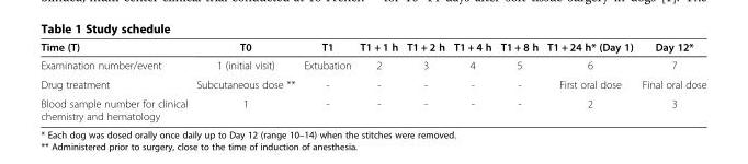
<table><thead><tr><td>Time (T)</td><td>T0</td><td>T1</td><td>T1 + 1 h</td><td>T1 + 2 h</td><td>T1 + 4 h</td><td>T1 + 8 h</td><td>T1 + 24 h* (Day 1)</td><td>Day 12*</td></tr></thead><tbody><tr><td>Examination number/event</td><td>1 (initial visit)</td><td>Extubation</td><td>2</td><td>3</td><td>4</td><td>5</td><td>6</td><td>7</td></tr><tr><td>Drug treatment</td><td>Subcutaneous dose **</td><td>-</td><td>-</td><td>-</td><td>-</td><td>-</td><td>First oral dose</td><td>Final oral dose</td></tr><tr><td>Blood sample number for clinical chemistry and hematology</td><td>1</td><td>-</td><td>-</td><td>-</td><td>-</td><td>-</td><td>2</td><td>3</td></tr></tbody></table>